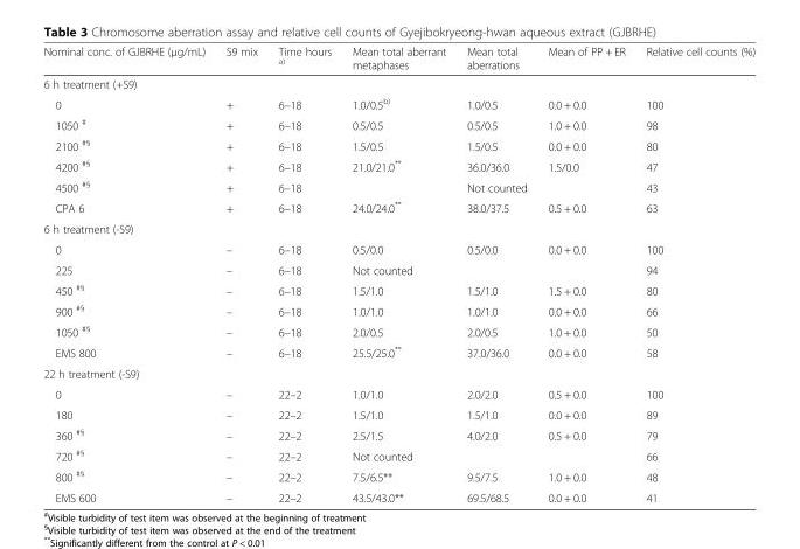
<table><thead><tr><td>Nominal conc. of GJBRHE (μg/mL)</td><td>S9 mix</td><td>Time hours <sup>a)</sup></td><td>Mean total aberrant metaphases</td><td>Mean total aberrations</td><td>Mean of PP + ER</td><td>Relative cell counts (%)</td></tr></thead><tbody><tr><td colspan="7">6 h treatment (+S9)</td></tr><tr><td>0</td><td>+</td><td>6–18</td><td>1.0/0.5<sup>b)</sup></td><td>1.0/0.5</td><td>0.0 + 0.0</td><td>100</td></tr><tr><td>1050 <sup>#</sup></td><td>+</td><td>6–18</td><td>0.5/0.5</td><td>0.5/0.5</td><td>1.0 + 0.0</td><td>98</td></tr><tr><td>2100 <sup>#§</sup></td><td>+</td><td>6–18</td><td>1.5/0.5</td><td>1.5/0.5</td><td>0.0 + 0.0</td><td>80</td></tr><tr><td>4200 <sup>#§</sup></td><td>+</td><td>6–18</td><td>21.0/21.0**</td><td>36.0/36.0</td><td>1.5/0.0</td><td>47</td></tr><tr><td>4500 <sup>#§</sup></td><td>+</td><td>6–18</td><td></td><td>Not counted</td><td></td><td>43</td></tr><tr><td>CPA 6</td><td>+</td><td>6–18</td><td>24.0/24.0**</td><td>38.0/37.5</td><td>0.5 + 0.0</td><td>63</td></tr><tr><td colspan="7">6 h treatment (-S9)</td></tr><tr><td>0</td><td>–</td><td>6–18</td><td>0.5/0.0</td><td>0.5/0.0</td><td>0.0 + 0.0</td><td>100</td></tr><tr><td>225</td><td>–</td><td>6–18</td><td>Not counted</td><td></td><td></td><td>94</td></tr><tr><td>450 <sup>#§</sup></td><td>–</td><td>6–18</td><td>1.5/1.0</td><td>1.5/1.0</td><td>1.5 + 0.0</td><td>80</td></tr><tr><td>900 <sup>#§</sup></td><td>–</td><td>6–18</td><td>1.0/1.0</td><td>1.0/1.0</td><td>0.0 + 0.0</td><td>66</td></tr><tr><td>1050 <sup>#§</sup></td><td>–</td><td>6–18</td><td>2.0/0.5</td><td>2.0/0.5</td><td>1.0 + 0.0</td><td>50</td></tr><tr><td>EMS 800</td><td>–</td><td>6–18</td><td>25.5/25.0**</td><td>37.0/36.0</td><td>0.0 + 0.0</td><td>58</td></tr><tr><td colspan="7">22 h treatment (-S9)</td></tr><tr><td>0</td><td>–</td><td>22–2</td><td>1.0/1.0</td><td>2.0/2.0</td><td>0.5 + 0.0</td><td>100</td></tr><tr><td>180</td><td>–</td><td>22–2</td><td>1.5/1.0</td><td>1.5/1.0</td><td>0.0 + 0.0</td><td>89</td></tr><tr><td>360 <sup>#§</sup></td><td>–</td><td>22–2</td><td>2.5/1.5</td><td>4.0/2.0</td><td>0.5 + 0.0</td><td>79</td></tr><tr><td>720 <sup>#§</sup></td><td>–</td><td>22–2</td><td>Not counted</td><td></td><td></td><td>66</td></tr><tr><td>800 <sup>#§</sup></td><td>–</td><td>22–2</td><td>7.5/6.5**</td><td>9.5/7.5</td><td>1.0 + 0.0</td><td>48</td></tr><tr><td>EMS 600</td><td>–</td><td>22–2</td><td>43.5/43.0**</td><td>69.5/68.5</td><td>0.0 + 0.0</td><td>41</td></tr></tbody></table>